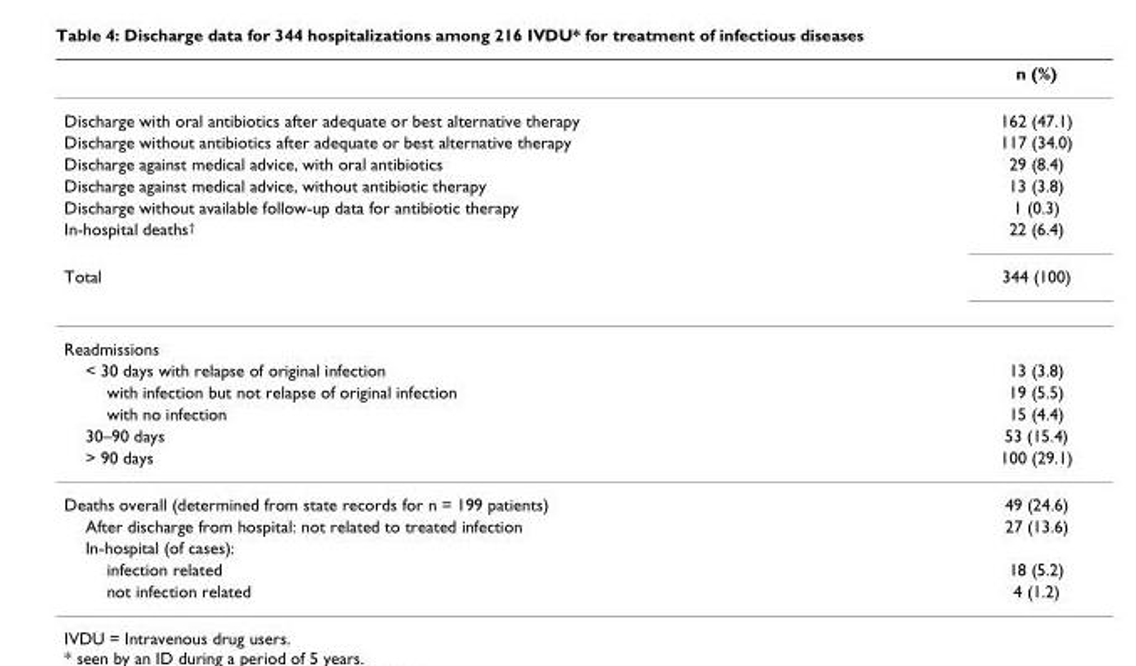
<table><thead><tr><td></td><td>n (%)</td></tr></thead><tbody><tr><td>Discharge with oral antibiotics after adequate or best alternative therapy</td><td>162 (47.1)</td></tr><tr><td>Discharge without antibiotics after adequate or best alternative therapy</td><td>117 (34.0)</td></tr><tr><td>Discharge against medical advice, with oral antibiotics</td><td>29 (8.4)</td></tr><tr><td>Discharge against medical advice, without antibiotic therapy</td><td>13 (3.8)</td></tr><tr><td>Discharge without available follow-up data for antibiotic therapy</td><td>1 (0.3)</td></tr><tr><td>In-hospital deaths<sup>†</sup></td><td>22 (6.4)</td></tr><tr><td>Total</td><td>344 (100)</td></tr><tr><td colspan="2">Readmissions</td></tr><tr><td>&lt; 30 days with relapse of original infection</td><td>13 (3.8)</td></tr><tr><td>with infection but not relapse of original infection</td><td>19 (5.5)</td></tr><tr><td>with no infection</td><td>15 (4.4)</td></tr><tr><td>30–90 days</td><td>53 (15.4)</td></tr><tr><td>&gt; 90 days</td><td>100 (29.1)</td></tr><tr><td>Deaths overall (determined from state records for n = 199 patients)</td><td>49 (24.6)</td></tr><tr><td>After discharge from hospital: not related to treated infection</td><td>27 (13.6)</td></tr><tr><td colspan="2">In-hospital (of cases):</td></tr><tr><td>infection related</td><td>18 (5.2)</td></tr><tr><td>not infection related</td><td>4 (1.2)</td></tr></tbody></table>